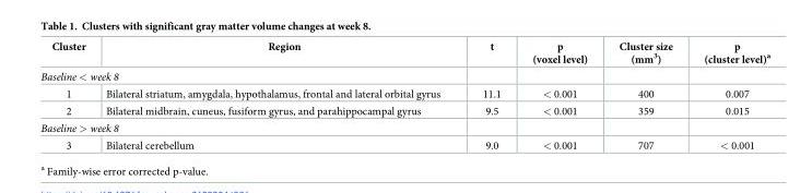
<table><thead><tr><td>Cluster</td><td>Region</td><td>t</td><td>p (voxel level)</td><td>Cluster size (mm<sup>3</sup>)</td><td>p (cluster level)<sup>a</sup></td></tr></thead><tbody><tr><td colspan="6">Baseline &lt; week 8</td></tr><tr><td>1</td><td>Bilateral striatum, amygdala, hypothalamus, frontal and lateral orbital gyrus</td><td>11.1</td><td>&lt; 0.001</td><td>400</td><td>0.007</td></tr><tr><td>2</td><td>Bilateral midbrain, cuneus, fusiform gyrus, and parahippocampal gyrus</td><td>9.5</td><td>&lt; 0.001</td><td>359</td><td>0.015</td></tr><tr><td colspan="6">Baseline &gt; week 8</td></tr><tr><td>3</td><td>Bilateral cerebellum</td><td>9.0</td><td>&lt; 0.001</td><td>707</td><td>&lt; 0.001</td></tr></tbody></table>